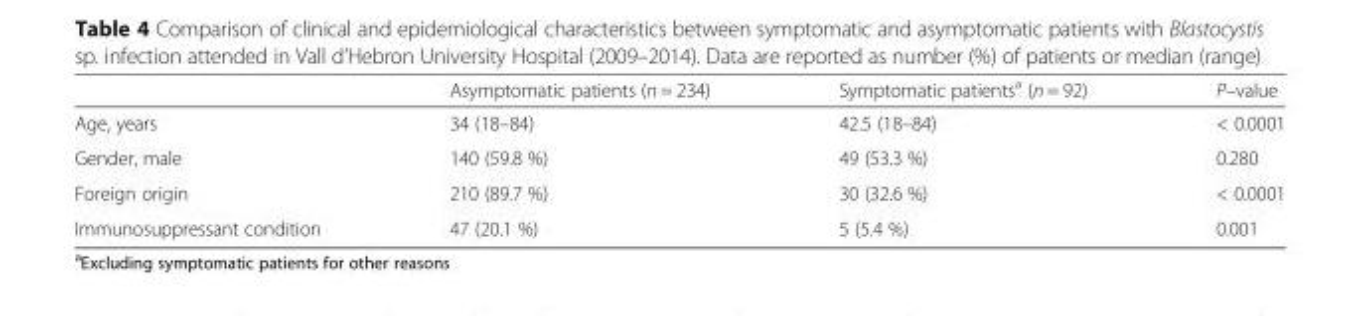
<table><thead><tr><td></td><td>Asymptomatic patients (n = 234)</td><td>Symptomatic patients<sup>a</sup> (n = 92)</td><td>P–value</td></tr></thead><tbody><tr><td>Age, years</td><td>34 (18–84)</td><td>42.5 (18–84)</td><td>&lt; 0.0001</td></tr><tr><td>Gender, male</td><td>140 (59.8 %)</td><td>49 (53.3 %)</td><td>0.280</td></tr><tr><td>Foreign origin</td><td>210 (89.7 %)</td><td>30 (32.6 %)</td><td>&lt; 0.0001</td></tr><tr><td>Immunosuppressant condition</td><td>47 (20.1 %)</td><td>5 (5.4 %)</td><td>0.001</td></tr></tbody></table>